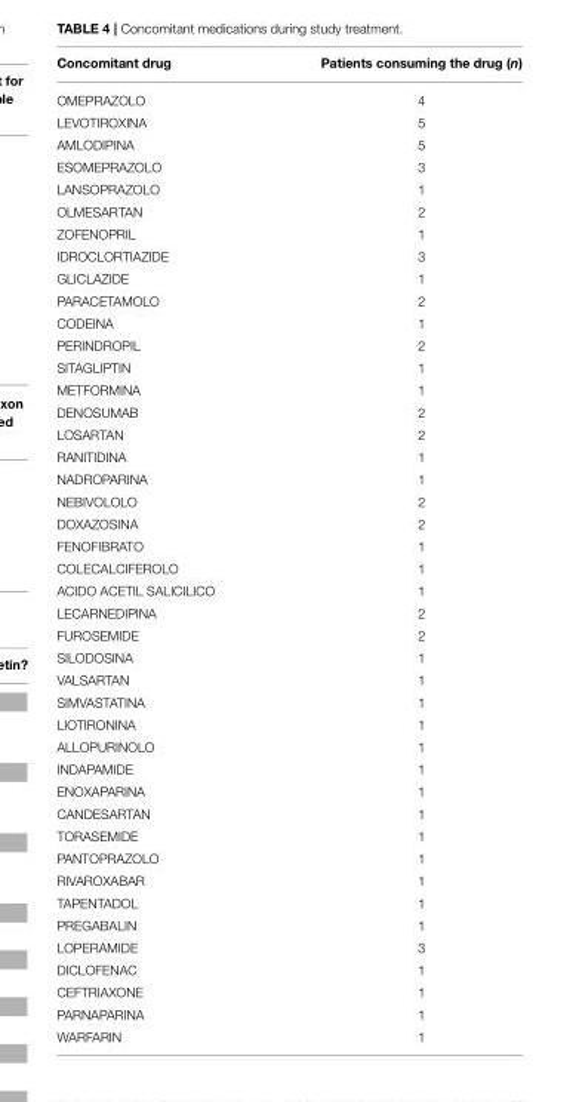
<table><thead><tr><td>Concomitant drug</td><td>Patients consuming the drug (n)</td></tr></thead><tbody><tr><td>OMEPRAZOLO</td><td>4</td></tr><tr><td>LEVOTIROXINA</td><td>5</td></tr><tr><td>AMLODIPINA</td><td>5</td></tr><tr><td>ESOMEPRAZOLO</td><td>3</td></tr><tr><td>LANSOPRAZOLO</td><td>1</td></tr><tr><td>OLMESARTAN</td><td>2</td></tr><tr><td>ZOFENOPRIL</td><td>1</td></tr><tr><td>IDROCLORTIAZIDE</td><td>3</td></tr><tr><td>GLICLAZIDE</td><td>1</td></tr><tr><td>PARACETAMOLO</td><td>2</td></tr><tr><td>CODEINA</td><td>1</td></tr><tr><td>PERINDROPIL</td><td>2</td></tr><tr><td>SITAGLIPTIN</td><td>1</td></tr><tr><td>METFORMINA</td><td>1</td></tr><tr><td>DENOSUMAB</td><td>2</td></tr><tr><td>LOSARTAN</td><td>2</td></tr><tr><td>RANITIDINA</td><td>1</td></tr><tr><td>NADROPARINA</td><td>1</td></tr><tr><td>NEBIVOLOLO</td><td>2</td></tr><tr><td>DOXAZOSINA</td><td>2</td></tr><tr><td>FENOFIBRATO</td><td>1</td></tr><tr><td>COLECALCIFEROLO</td><td>1</td></tr><tr><td>ACIDO ACETIL SALICILICO</td><td>1</td></tr><tr><td>LECARNEDIPINA</td><td>2</td></tr><tr><td>FUROSEMIDE</td><td>2</td></tr><tr><td>SILODOSINA</td><td>1</td></tr><tr><td>VALSARTAN</td><td>1</td></tr><tr><td>SIMVASTATINA</td><td>1</td></tr><tr><td>LIOTIRONINA</td><td>1</td></tr><tr><td>ALLOPURINOLO</td><td>1</td></tr><tr><td>INDAPAMIDE</td><td>1</td></tr><tr><td>ENOXAPARINA</td><td>1</td></tr><tr><td>CANDESARTAN</td><td>1</td></tr><tr><td>TORASEMIDE</td><td>1</td></tr><tr><td>PANTOPRAZOLO</td><td>1</td></tr><tr><td>RIVAROXABAR</td><td>1</td></tr><tr><td>TAPENTADOL</td><td>1</td></tr><tr><td>PREGABALIN</td><td>1</td></tr><tr><td>LOPERAMIDE</td><td>3</td></tr><tr><td>DICLOFENAC</td><td>1</td></tr><tr><td>CEFTRIAXONE</td><td>1</td></tr><tr><td>PARNAPARINA</td><td>1</td></tr><tr><td>WARFARIN</td><td>1</td></tr></tbody></table>